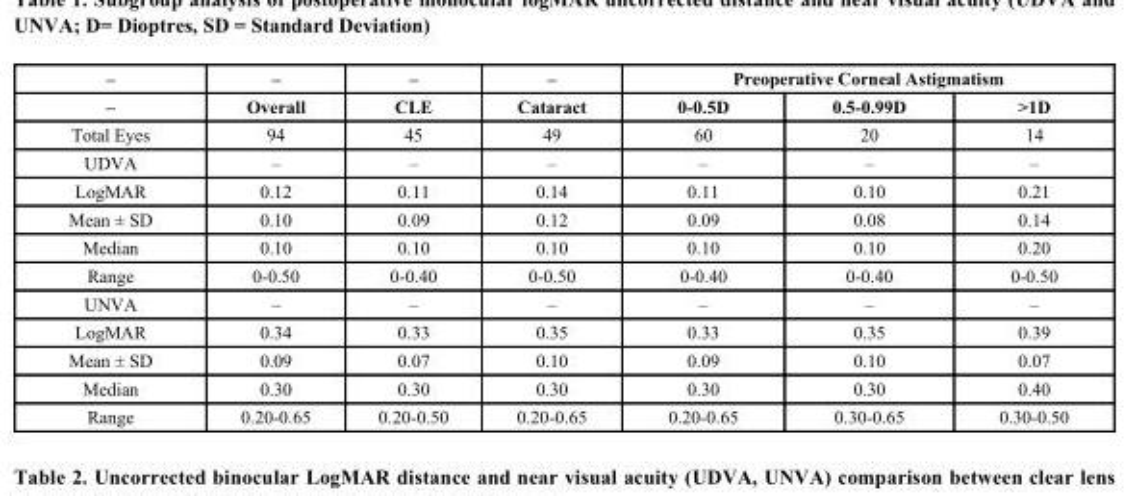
<table><thead><tr><td rowspan="2">– –</td><td rowspan="2">– Overall</td><td rowspan="2">– CLE</td><td rowspan="2">– Cataract</td><td colspan="3">Preoperative Corneal Astigmatism</td></tr><tr><td>0-0.5D</td><td>0.5-0.99D</td><td>&gt;1D</td></tr></thead><tbody><tr><td>Total Eyes</td><td>94</td><td>45</td><td>49</td><td>60</td><td>20</td><td>14</td></tr><tr><td>UDVA</td><td>–</td><td>–</td><td>–</td><td>–</td><td>–</td><td>–</td></tr><tr><td>LogMAR</td><td>0.12</td><td>0.11</td><td>0.14</td><td>0.11</td><td>0.10</td><td>0.21</td></tr><tr><td>Mean ± SD</td><td>0.10</td><td>0.09</td><td>0.12</td><td>0.09</td><td>0.08</td><td>0.14</td></tr><tr><td>Median</td><td>0.10</td><td>0.10</td><td>0.10</td><td>0.10</td><td>0.10</td><td>0.20</td></tr><tr><td>Range</td><td>0-0.50</td><td>0-0.40</td><td>0-0.50</td><td>0-0.40</td><td>0-0.40</td><td>0-0.50</td></tr><tr><td>UNVA</td><td>–</td><td>–</td><td>–</td><td>–</td><td>–</td><td>–</td></tr><tr><td>LogMAR</td><td>0.34</td><td>0.33</td><td>0.35</td><td>0.33</td><td>0.35</td><td>0.39</td></tr><tr><td>Mean ± SD</td><td>0.09</td><td>0.07</td><td>0.10</td><td>0.09</td><td>0.10</td><td>0.07</td></tr><tr><td>Median</td><td>0.30</td><td>0.30</td><td>0.30</td><td>0.30</td><td>0.30</td><td>0.40</td></tr><tr><td>Range</td><td>0.20-0.65</td><td>0.20-0.50</td><td>0.20-0.65</td><td>0.20-0.65</td><td>0.30-0.65</td><td>0.30-0.50</td></tr></tbody></table>